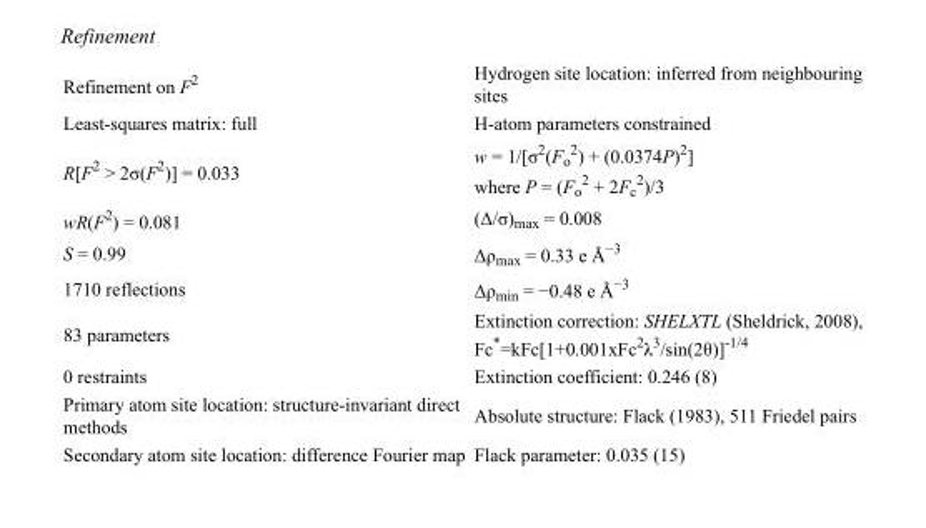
<table><tbody><tr><td>Refinement on F<sup>2</sup></td><td>Hydrogen site location: inferred from neighbouring sites</td></tr><tr><td>Least-squares matrix: full</td><td>H-atom parameters constrained</td></tr><tr><td>R[F<sup>2</sup> &gt; 2σ(F<sup>2</sup>)] = 0.033</td><td>w = 1/[σ<sup>2</sup>(F<sub>o</sub> <sup>2</sup>) + (0.0374P)<sup>2</sup>] where P = (F<sub>o</sub> <sup>2</sup> + 2F<sub>c</sub> <sup>2</sup>)/3</td></tr><tr><td>wR(F<sup>2</sup>) = 0.081</td><td>(Δ/σ)<sub>max</sub> = 0.008</td></tr><tr><td>S = 0.99</td><td>Δρ<sub>max</sub> = 0.33 e Å<sup>−3</sup></td></tr><tr><td>1710 reflections</td><td>Δρ<sub>min</sub> = −0.48 e Å<sup>−3</sup></td></tr><tr><td>83 parameters</td><td>Extinction correction: SHELXTL (Sheldrick, 2008), Fc*=kFc[1+0.001xFc<sup>2</sup>λ<sup>3</sup>/sin(2θ)]<sup>-1/4</sup></td></tr><tr><td>0 restraints</td><td>Extinction coefficient: 0.246 (8)</td></tr><tr><td>Primary atom site location: structure-invariant direct methods</td><td>Absolute structure: Flack (1983), 511 Friedel pairs</td></tr><tr><td>Secondary atom site location: difference Fourier map</td><td>Flack parameter: 0.035 (15)</td></tr></tbody></table>